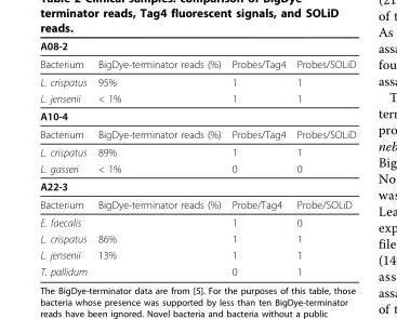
<table><thead><tr><td>A08-2</td><td></td><td></td><td></td></tr></thead><tbody><tr><td>Bacterium</td><td>BigDye-terminator reads (%)</td><td>Probes/Tag4</td><td>Probes/SOLiD</td></tr><tr><td>L. crispatus</td><td>95%</td><td>1</td><td>1</td></tr><tr><td>L. jensenii</td><td>&lt; 1%</td><td>1</td><td>1</td></tr><tr><td colspan="4">A10-4</td></tr><tr><td>Bacterium</td><td>BigDye-terminator reads (%)</td><td>Probes/Tag4</td><td>Probes/SOLiD</td></tr><tr><td>L. crispatus</td><td>89%</td><td>1</td><td>1</td></tr><tr><td>L. gasseri</td><td>&lt; 1%</td><td>0</td><td>0</td></tr><tr><td colspan="4">A22-3</td></tr><tr><td>Bacterium</td><td>BigDye-terminator reads (%)</td><td>Probe/Tag4</td><td>Probe/SOLiD</td></tr><tr><td>E. faecalis</td><td></td><td>1</td><td>0</td></tr><tr><td>L. crispatus</td><td>86%</td><td>1</td><td>1</td></tr><tr><td>L. jensenii</td><td>13%</td><td>1</td><td>1</td></tr><tr><td>T. pallidum</td><td></td><td>0</td><td>1</td></tr></tbody></table>